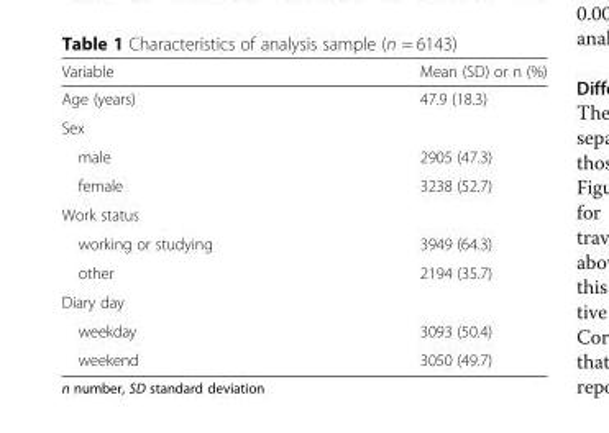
<table><thead><tr><td>Variable</td><td>Mean (SD) or n (%)</td></tr></thead><tbody><tr><td>Age (years)</td><td>47.9 (18.3)</td></tr><tr><td colspan="2">Sex</td></tr><tr><td>male</td><td>2905 (47.3)</td></tr><tr><td>female</td><td>3238 (52.7)</td></tr><tr><td colspan="2">Work status</td></tr><tr><td>working or studying</td><td>3949 (64.3)</td></tr><tr><td>other</td><td>2194 (35.7)</td></tr><tr><td colspan="2">Diary day</td></tr><tr><td>weekday</td><td>3093 (50.4)</td></tr><tr><td>weekend</td><td>3050 (49.7)</td></tr></tbody></table>